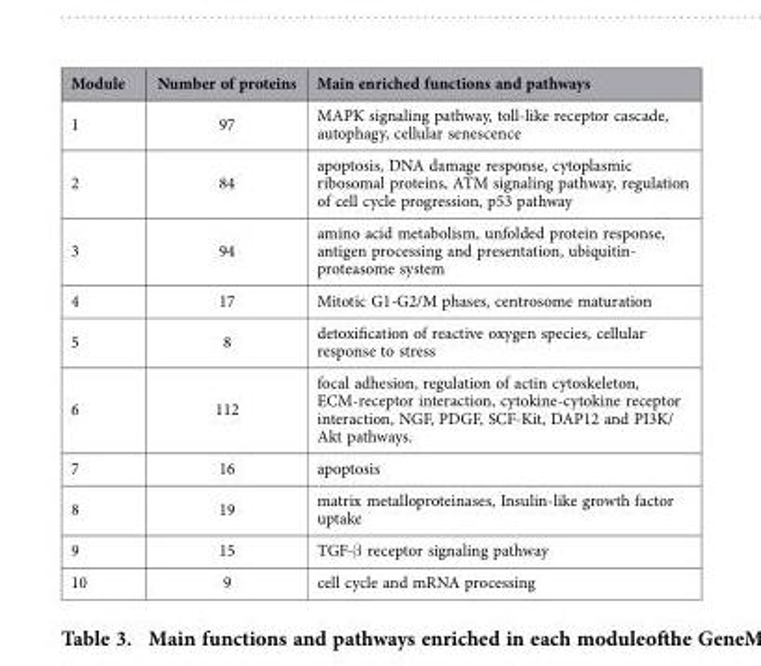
<table><thead><tr><td>Module</td><td>Number of proteins</td><td>Main enriched functions and pathways</td></tr></thead><tbody><tr><td>1</td><td>97</td><td>MAPK signaling pathway, toll-like receptor cascade, autophagy, cellular senescence</td></tr><tr><td>2</td><td>84</td><td>apoptosis, DNA damage response, cytoplasmic ribosomal proteins, ATM signaling pathway, regulation of cell cycle progression, p53 pathway</td></tr><tr><td>3</td><td>94</td><td>amino acid metabolism, unfolded protein response, antigen processing and presentation, ubiquitin- proteasome system</td></tr><tr><td>4</td><td>17</td><td>Mitotic G1-G2/M phases, centrosome maturation</td></tr><tr><td>5</td><td>8</td><td>detoxification of reactive oxygen species, cellular response to stress</td></tr><tr><td>6</td><td>112</td><td>focal adhesion, regulation of actin cytoskeleton, ECM-receptor interaction, cytokine-cytokine receptor interaction, NGF, PDGF, SCF-Kit, DAP12 and PI3K/ Akt pathways.</td></tr><tr><td>7</td><td>16</td><td>apoptosis</td></tr><tr><td>8</td><td>19</td><td>matrix metalloproteinases, Insulin-like growth factor uptake</td></tr><tr><td>9</td><td>15</td><td>TGF-β receptor signaling pathway</td></tr><tr><td>10</td><td>9</td><td>cell cycle and mRNA processing</td></tr></tbody></table>